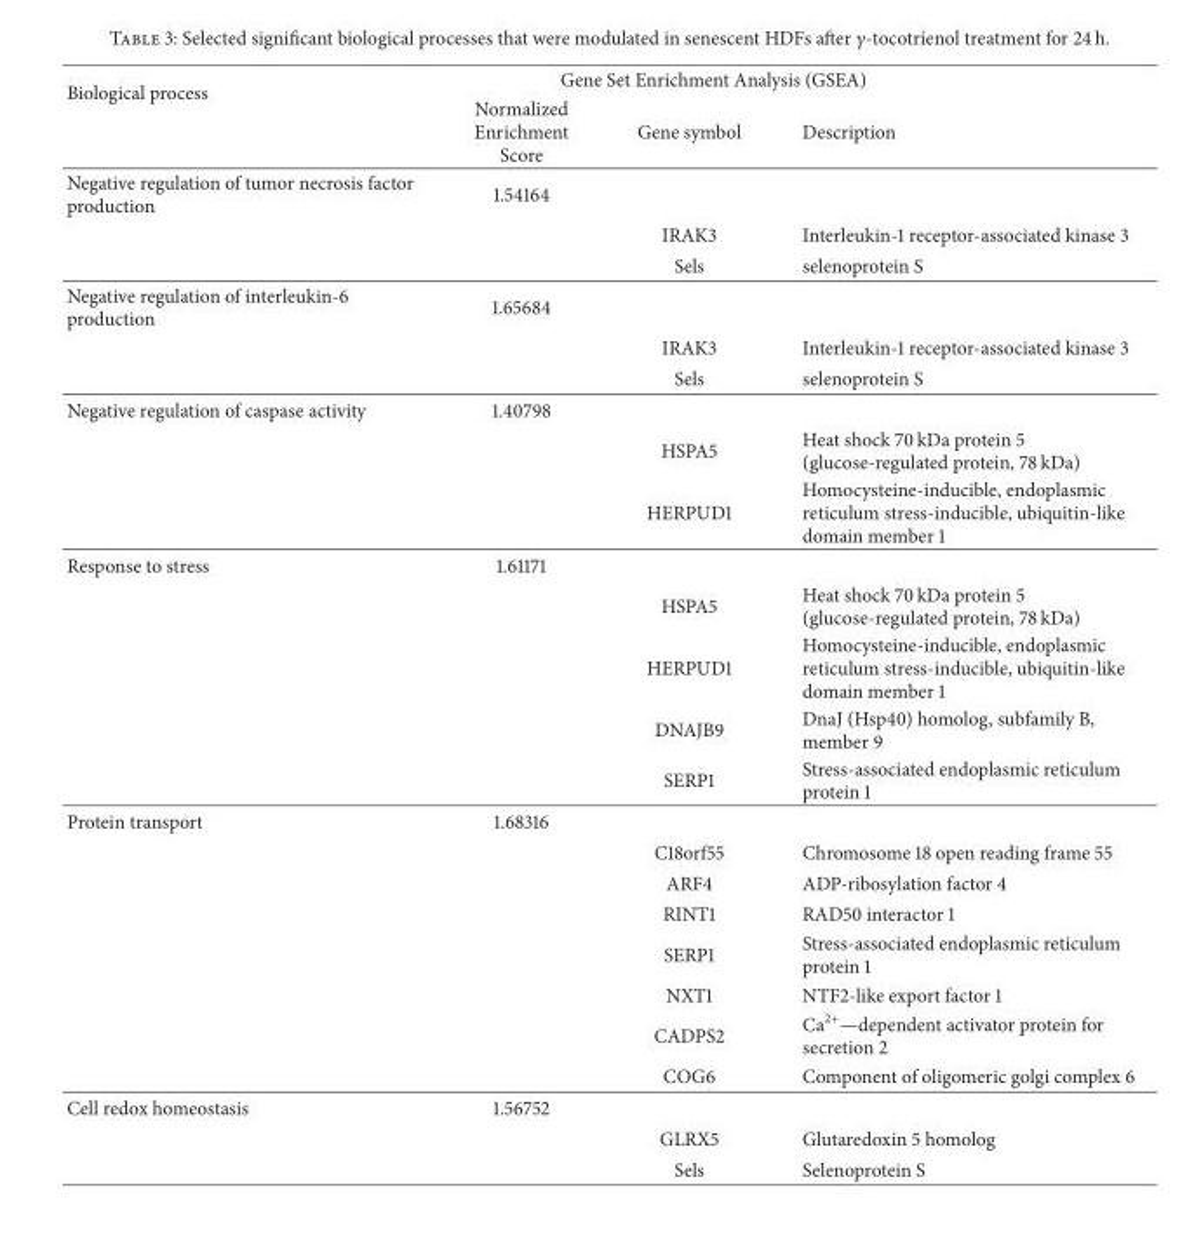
<table><thead><tr><td rowspan="2">Biological process</td><td colspan="3">Gene Set Enrichment Analysis (GSEA)</td></tr><tr><td>Normalized Enrichment Score</td><td>Gene symbol</td><td>Description</td></tr></thead><tbody><tr><td rowspan="3">Negative regulation of tumor necrosis factor production</td><td>1.54164</td><td></td><td></td></tr><tr><td></td><td>IRAK3</td><td>Interleukin-1 receptor-associated kinase 3</td></tr><tr><td></td><td>Sels</td><td>selenoprotein S</td></tr><tr><td rowspan="3">Negative regulation of interleukin-6 production</td><td>1.65684</td><td></td><td></td></tr><tr><td></td><td>IRAK3</td><td>Interleukin-1 receptor-associated kinase 3</td></tr><tr><td></td><td>Sels</td><td>selenoprotein S</td></tr><tr><td rowspan="3">Negative regulation of caspase activity</td><td>1.40798</td><td></td><td></td></tr><tr><td></td><td>HSPA5</td><td>Heat shock 70 kDa protein 5 (glucose-regulated protein, 78 kDa)</td></tr><tr><td></td><td>HERPUD1</td><td>Homocysteine-inducible, endoplasmic reticulum stress-inducible, ubiquitin-like domain member 1</td></tr><tr><td rowspan="5">Response to stress</td><td>1.61171</td><td></td><td></td></tr><tr><td></td><td>HSPA5</td><td>Heat shock 70 kDa protein 5 (glucose-regulated protein, 78 kDa)</td></tr><tr><td></td><td>HERPUD1</td><td>Homocysteine-inducible, endoplasmic reticulum stress-inducible, ubiquitin-like domain member 1</td></tr><tr><td></td><td>DNAJB9</td><td>DnaJ (Hsp40) homolog, subfamily B, member 9</td></tr><tr><td></td><td>SERP1</td><td>Stress-associated endoplasmic reticulum protein 1</td></tr><tr><td rowspan="8">Protein transport</td><td>1.68316</td><td></td><td></td></tr><tr><td></td><td>C18orf55</td><td>Chromosome 18 open reading frame 55</td></tr><tr><td></td><td>ARF4</td><td>ADP-ribosylation factor 4</td></tr><tr><td></td><td>RINT1</td><td>RAD50 interactor 1</td></tr><tr><td></td><td>SERP1</td><td>Stress-associated endoplasmic reticulum protein 1</td></tr><tr><td></td><td>NXT1</td><td>NTF2-like export factor 1</td></tr><tr><td></td><td>CADPS2</td><td>Ca2+—dependent activator protein for secretion 2</td></tr><tr><td></td><td>COG6</td><td>Component of oligomeric golgi complex 6</td></tr><tr><td rowspan="3">Cell redox homeostasis</td><td>1.56752</td><td></td><td></td></tr><tr><td></td><td>GLRX5</td><td>Glutaredoxin 5 homolog</td></tr><tr><td></td><td>Sels</td><td>Selenoprotein S</td></tr></tbody></table>